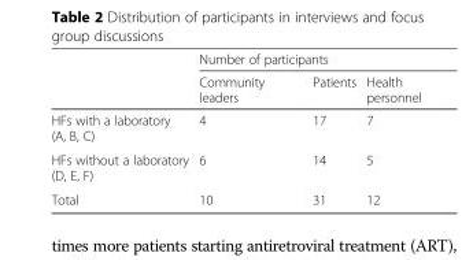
<table><thead><tr><td rowspan="2"></td><td colspan="3">Number of participants</td></tr><tr><td>Community leaders</td><td>Patients</td><td>Health personnel</td></tr></thead><tbody><tr><td>HFs with a laboratory (A, B, C)</td><td>4</td><td>17</td><td>7</td></tr><tr><td>HFs without a laboratory (D, E, F)</td><td>6</td><td>14</td><td>5</td></tr><tr><td>Total</td><td>10</td><td>31</td><td>12</td></tr></tbody></table>